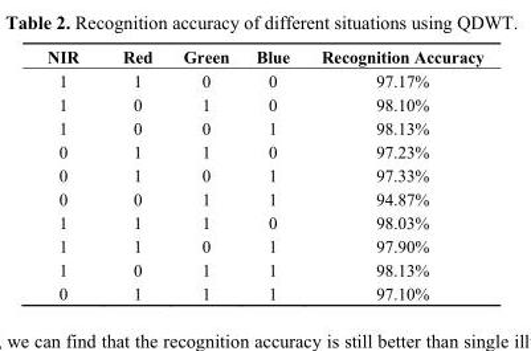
<table><thead><tr><td>NIR</td><td>Red</td><td>Green</td><td>Blue</td><td>Recognition Accuracy</td></tr></thead><tbody><tr><td>1</td><td>1</td><td>0</td><td>0</td><td>97.17%</td></tr><tr><td>1</td><td>0</td><td>1</td><td>0</td><td>98.10%</td></tr><tr><td>1</td><td>0</td><td>0</td><td>1</td><td>98.13%</td></tr><tr><td>0</td><td>1</td><td>1</td><td>0</td><td>97.23%</td></tr><tr><td>0</td><td>1</td><td>0</td><td>1</td><td>97.33%</td></tr><tr><td>0</td><td>0</td><td>1</td><td>1</td><td>94.87%</td></tr><tr><td>1</td><td>1</td><td>1</td><td>0</td><td>98.03%</td></tr><tr><td>1</td><td>1</td><td>0</td><td>1</td><td>97.90%</td></tr><tr><td>1</td><td>0</td><td>1</td><td>1</td><td>98.13%</td></tr><tr><td>0</td><td>1</td><td>1</td><td>1</td><td>97.10%</td></tr></tbody></table>